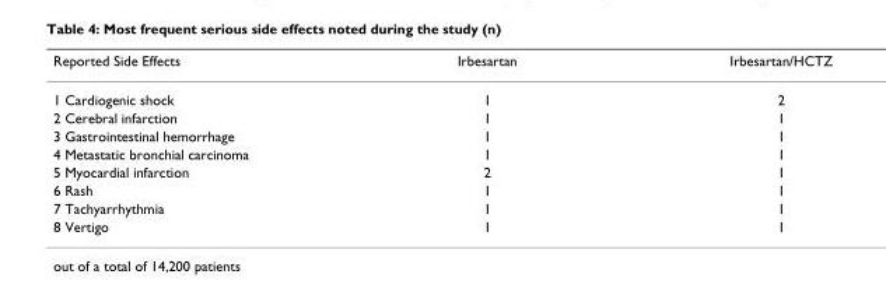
<table><thead><tr><td>Reported Side Effects</td><td>Irbesartan</td><td>Irbesartan/HCTZ</td></tr></thead><tbody><tr><td>1 Cardiogenic shock</td><td>1</td><td>2</td></tr><tr><td>2 Cerebral infarction</td><td>1</td><td>1</td></tr><tr><td>3 Gastrointestinal hemorrhage</td><td>1</td><td>1</td></tr><tr><td>4 Metastatic bronchial carcinoma</td><td>1</td><td>1</td></tr><tr><td>5 Myocardial infarction</td><td>2</td><td>1</td></tr><tr><td>6 Rash</td><td>1</td><td>1</td></tr><tr><td>7 Tachyarrhythmia</td><td>1</td><td>1</td></tr><tr><td>8 Vertigo</td><td>1</td><td>1</td></tr></tbody></table>